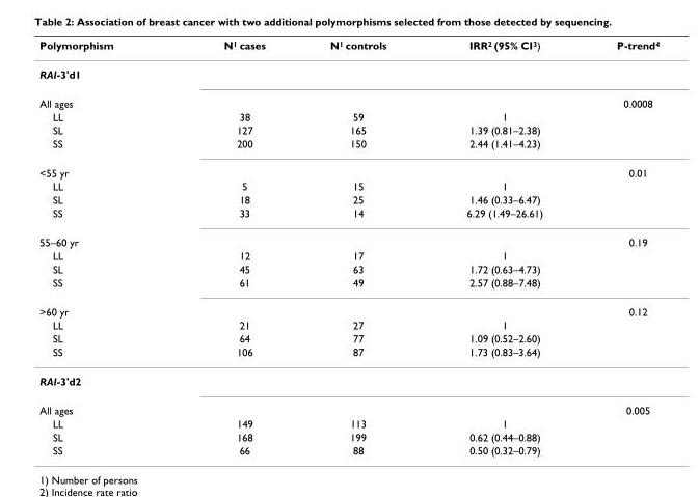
<table><thead><tr><td>Polymorphism</td><td>N1 cases</td><td>N1 controls</td><td>IRR2 (95% CI3)</td><td>P-trend<sup>4</sup></td></tr></thead><tbody><tr><td colspan="5">RAI-3&#x27;d1</td></tr><tr><td>All ages</td><td></td><td></td><td></td><td>0.0008</td></tr><tr><td>LL</td><td>38</td><td>59</td><td>1</td><td></td></tr><tr><td>SL</td><td>127</td><td>165</td><td>1.39 (0.81–2.38)</td><td></td></tr><tr><td>SS</td><td>200</td><td>150</td><td>2.44 (1.41–4.23)</td><td></td></tr><tr><td>&lt;55 yr</td><td></td><td></td><td></td><td>0.01</td></tr><tr><td>LL</td><td>5</td><td>15</td><td>1</td><td></td></tr><tr><td>SL</td><td>18</td><td>25</td><td>1.46 (0.33–6.47)</td><td></td></tr><tr><td>SS</td><td>33</td><td>14</td><td>6.29 (1.49–26.61)</td><td></td></tr><tr><td>55–60 yr</td><td></td><td></td><td></td><td>0.19</td></tr><tr><td>LL</td><td>12</td><td>17</td><td>1</td><td></td></tr><tr><td>SL</td><td>45</td><td>63</td><td>1.72 (0.63–4.73)</td><td></td></tr><tr><td>SS</td><td>61</td><td>49</td><td>2.57 (0.88–7.48)</td><td></td></tr><tr><td>&gt;60 yr</td><td></td><td></td><td></td><td>0.12</td></tr><tr><td>LL</td><td>21</td><td>27</td><td>1</td><td></td></tr><tr><td>SL</td><td>64</td><td>77</td><td>1.09 (0.52–2.60)</td><td></td></tr><tr><td>SS</td><td>106</td><td>87</td><td>1.73 (0.83–3.64)</td><td></td></tr><tr><td colspan="5">RAI-3&#x27;d2</td></tr><tr><td>All ages</td><td></td><td></td><td></td><td>0.005</td></tr><tr><td>LL</td><td>149</td><td>113</td><td>1</td><td></td></tr><tr><td>SL</td><td>168</td><td>199</td><td>0.62 (0.44–0.88)</td><td></td></tr><tr><td>SS</td><td>66</td><td>88</td><td>0.50 (0.32–0.79)</td><td></td></tr></tbody></table>